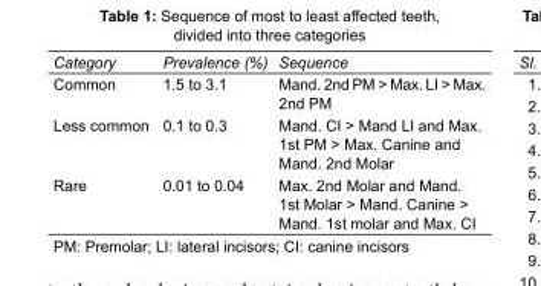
<table><tbody><tr><td>Category</td><td>Prevalence (%)</td><td>Sequence</td></tr><tr><td>Common</td><td>1.5 to 3.1</td><td>Mand. 2nd PM &gt; Max. LI &gt; Max. 2nd PM</td></tr><tr><td>Less common</td><td>0.1 to 0.3</td><td>Mand. CI &gt; Mand LI and Max. 1st PM &gt; Max. Canine and Mand. 2nd Molar</td></tr><tr><td>Rare</td><td>0.01 to 0.04</td><td>Max. 2nd Molar and Mand. 1st Molar &gt; Mand. Canine &gt; Mand. 1st molar and Max. CI</td></tr></tbody></table>